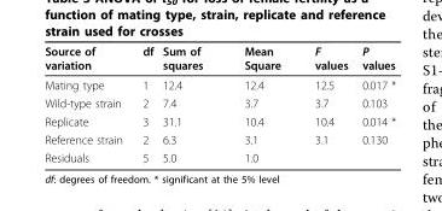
<table><thead><tr><td>Source of variation</td><td>df</td><td>Sum of squares</td><td>Mean Square</td><td>F values</td><td>P values</td></tr></thead><tbody><tr><td>Mating type</td><td>1</td><td>12.4</td><td>12.4</td><td>12.5</td><td>0.017 *</td></tr><tr><td>Wild-type strain</td><td>2</td><td>7.4</td><td>3.7</td><td>3.7</td><td>0.103</td></tr><tr><td>Replicate</td><td>3</td><td>31.1</td><td>10.4</td><td>10.4</td><td>0.014 *</td></tr><tr><td>Reference strain</td><td>2</td><td>6.3</td><td>3.1</td><td>3.1</td><td>0.130</td></tr><tr><td>Residuals</td><td>5</td><td>5.0</td><td>1.0</td><td></td><td></td></tr></tbody></table>